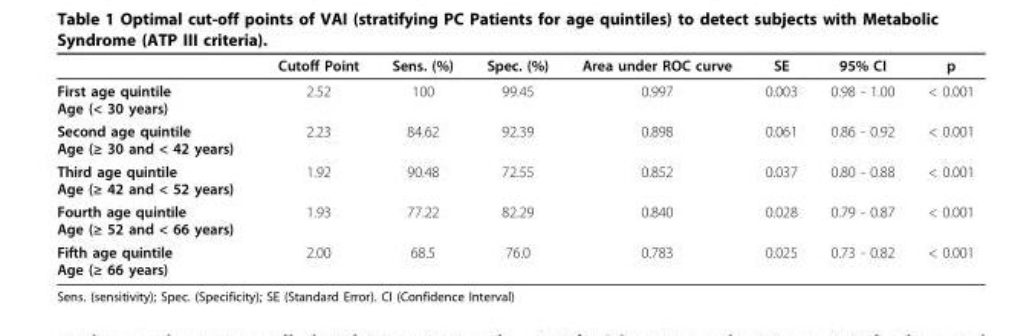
<table><thead><tr><td></td><td>Cutoff Point</td><td>Sens. (%)</td><td>Spec. (%)</td><td>Area under ROC curve</td><td>SE</td><td>95% CI</td><td>p</td></tr></thead><tbody><tr><td>First age quintile Age (&lt; 30 years)</td><td>2.52</td><td>100</td><td>99.45</td><td>0.997</td><td>0.003</td><td>0.98 - 1.00</td><td>&lt; 0.001</td></tr><tr><td>Second age quintile Age (≥ 30 and &lt; 42 years)</td><td>2.23</td><td>84.62</td><td>92.39</td><td>0.898</td><td>0.061</td><td>0.86 - 0.92</td><td>&lt; 0.001</td></tr><tr><td>Third age quintile Age (≥ 42 and &lt; 52 years)</td><td>1.92</td><td>90.48</td><td>72.55</td><td>0.852</td><td>0.037</td><td>0.80 - 0.88</td><td>&lt; 0.001</td></tr><tr><td>Fourth age quintile Age (≥ 52 and &lt; 66 years)</td><td>1.93</td><td>77.22</td><td>82.29</td><td>0.840</td><td>0.028</td><td>0.79 - 0.87</td><td>&lt; 0.001</td></tr><tr><td>Fifth age quintile Age (≥ 66 years)</td><td>2.00</td><td>68.5</td><td>76.0</td><td>0.783</td><td>0.025</td><td>0.73 - 0.82</td><td>&lt; 0.001</td></tr></tbody></table>